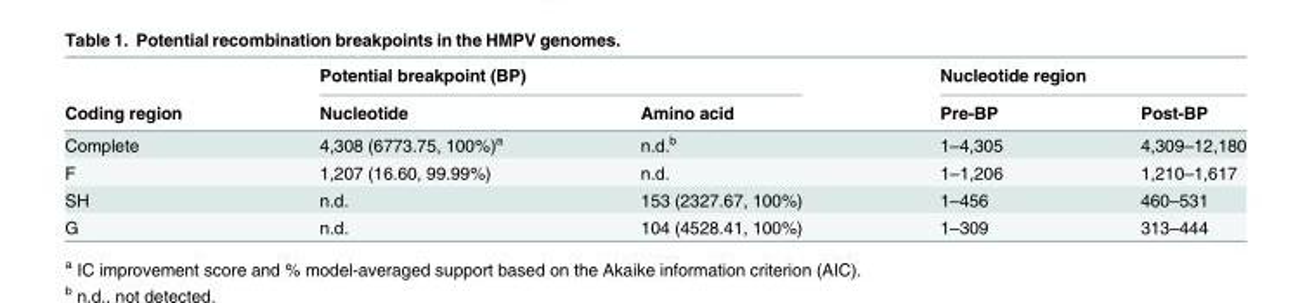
<table><thead><tr><td rowspan="2">Coding region</td><td colspan="2">Potential breakpoint (BP)</td><td colspan="2">Nucleotide region</td></tr><tr><td>Nucleotide</td><td>Amino acid</td><td>Pre-BP</td><td>Post-BP</td></tr></thead><tbody><tr><td>Complete</td><td>4,308 (6773.75, 100%)<sup>a</sup></td><td>n.d.<sup>b</sup></td><td>1–4,305</td><td>4,309–12,180</td></tr><tr><td>F</td><td>1,207 (16.60, 99.99%)</td><td>n.d.</td><td>1–1,206</td><td>1,210–1,617</td></tr><tr><td>SH</td><td>n.d.</td><td>153 (2327.67, 100%)</td><td>1–456</td><td>460–531</td></tr><tr><td>G</td><td>n.d.</td><td>104 (4528.41, 100%)</td><td>1–309</td><td>313–444</td></tr></tbody></table>